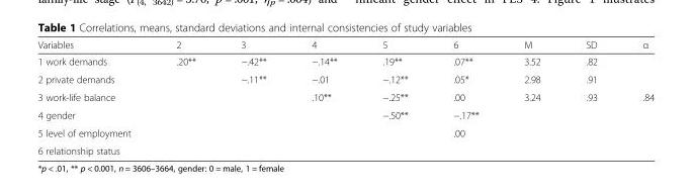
<table><thead><tr><td>Variables</td><td>2</td><td>3</td><td>4</td><td>5</td><td>6</td><td>M</td><td>SD</td><td>α</td></tr></thead><tbody><tr><td>1 work demands</td><td>.20**</td><td>−.42**</td><td>−.14**</td><td>.19**</td><td>.07**</td><td>3.52</td><td>.82</td><td></td></tr><tr><td>2 private demands</td><td></td><td>−.11**</td><td>−.01</td><td>−.12**</td><td>.05*</td><td>2.98</td><td>.91</td><td></td></tr><tr><td>3 work-life balance</td><td></td><td></td><td>.10**</td><td>−.25**</td><td>.00</td><td>3.24</td><td>.93</td><td>.84</td></tr><tr><td>4 gender</td><td></td><td></td><td></td><td>−.50**</td><td>−.17**</td><td></td><td></td><td></td></tr><tr><td>5 level of employment</td><td></td><td></td><td></td><td></td><td>.00</td><td></td><td></td><td></td></tr><tr><td>6 relationship status</td><td></td><td></td><td></td><td></td><td></td><td></td><td></td><td></td></tr></tbody></table>